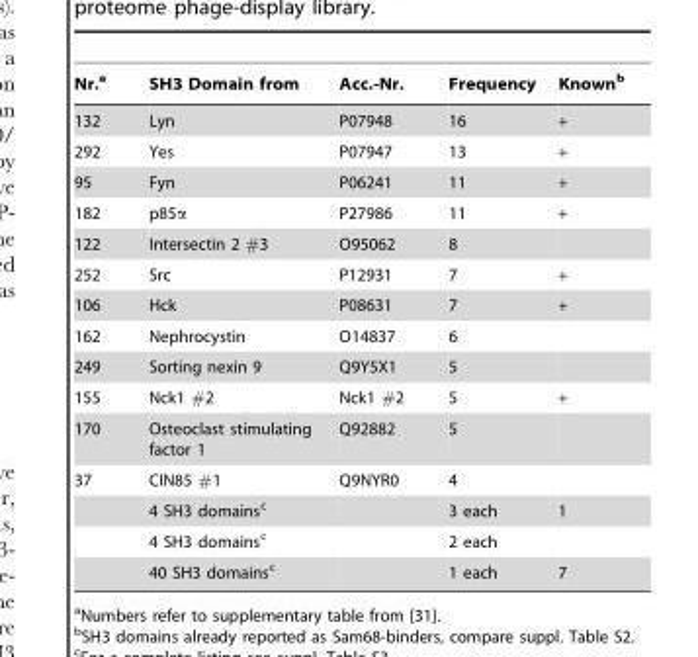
<table><thead><tr><td>Nr.<sup>a</sup></td><td>SH3 Domain from</td><td>Acc.-Nr.</td><td>Frequency</td><td>Known<sup>b</sup></td></tr></thead><tbody><tr><td>132</td><td>Lyn</td><td>P07948</td><td>16</td><td>+</td></tr><tr><td>292</td><td>Yes</td><td>P07947</td><td>13</td><td>+</td></tr><tr><td>95</td><td>Fyn</td><td>P06241</td><td>11</td><td>+</td></tr><tr><td>182</td><td>p85α</td><td>P27986</td><td>11</td><td>+</td></tr><tr><td>122</td><td>Intersectin 2 #3</td><td>O95062</td><td>8</td><td></td></tr><tr><td>252</td><td>Src</td><td>P12931</td><td>7</td><td>+</td></tr><tr><td>106</td><td>Hck</td><td>P08631</td><td>7</td><td>+</td></tr><tr><td>162</td><td>Nephrocystin</td><td>O14837</td><td>6</td><td></td></tr><tr><td>249</td><td>Sorting nexin 9</td><td>Q9Y5X1</td><td>5</td><td></td></tr><tr><td>155</td><td>Nck1 #2</td><td>Nck1 #2</td><td>5</td><td>+</td></tr><tr><td>170</td><td>Osteoclast stimulating factor 1</td><td>Q92882</td><td>5</td><td></td></tr><tr><td rowspan="4">37</td><td>CIN85 #1</td><td>Q9NYR0</td><td>4</td><td></td></tr><tr><td>4 SH3 domains<sup>c</sup></td><td></td><td>3 each</td><td>1</td></tr><tr><td>4 SH3 domains<sup>c</sup></td><td></td><td>2 each</td><td></td></tr><tr><td>40 SH3 domains<sup>c</sup></td><td></td><td>1 each</td><td>7</td></tr></tbody></table>